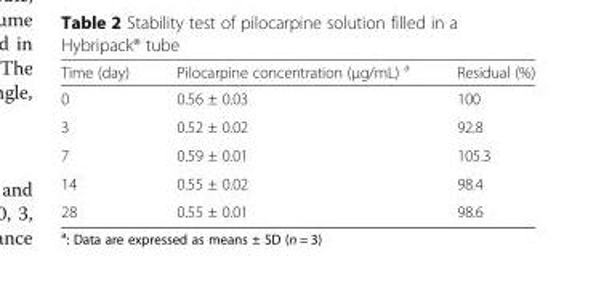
<table><thead><tr><td>Time (day)</td><td>Pilocarpine concentration (μg/mL) <sup>a</sup></td><td>Residual (%)</td></tr></thead><tbody><tr><td>0</td><td>0.56 ± 0.03</td><td>100</td></tr><tr><td>3</td><td>0.52 ± 0.02</td><td>92.8</td></tr><tr><td>7</td><td>0.59 ± 0.01</td><td>105.3</td></tr><tr><td>14</td><td>0.55 ± 0.02</td><td>98.4</td></tr><tr><td>28</td><td>0.55 ± 0.01</td><td>98.6</td></tr></tbody></table>